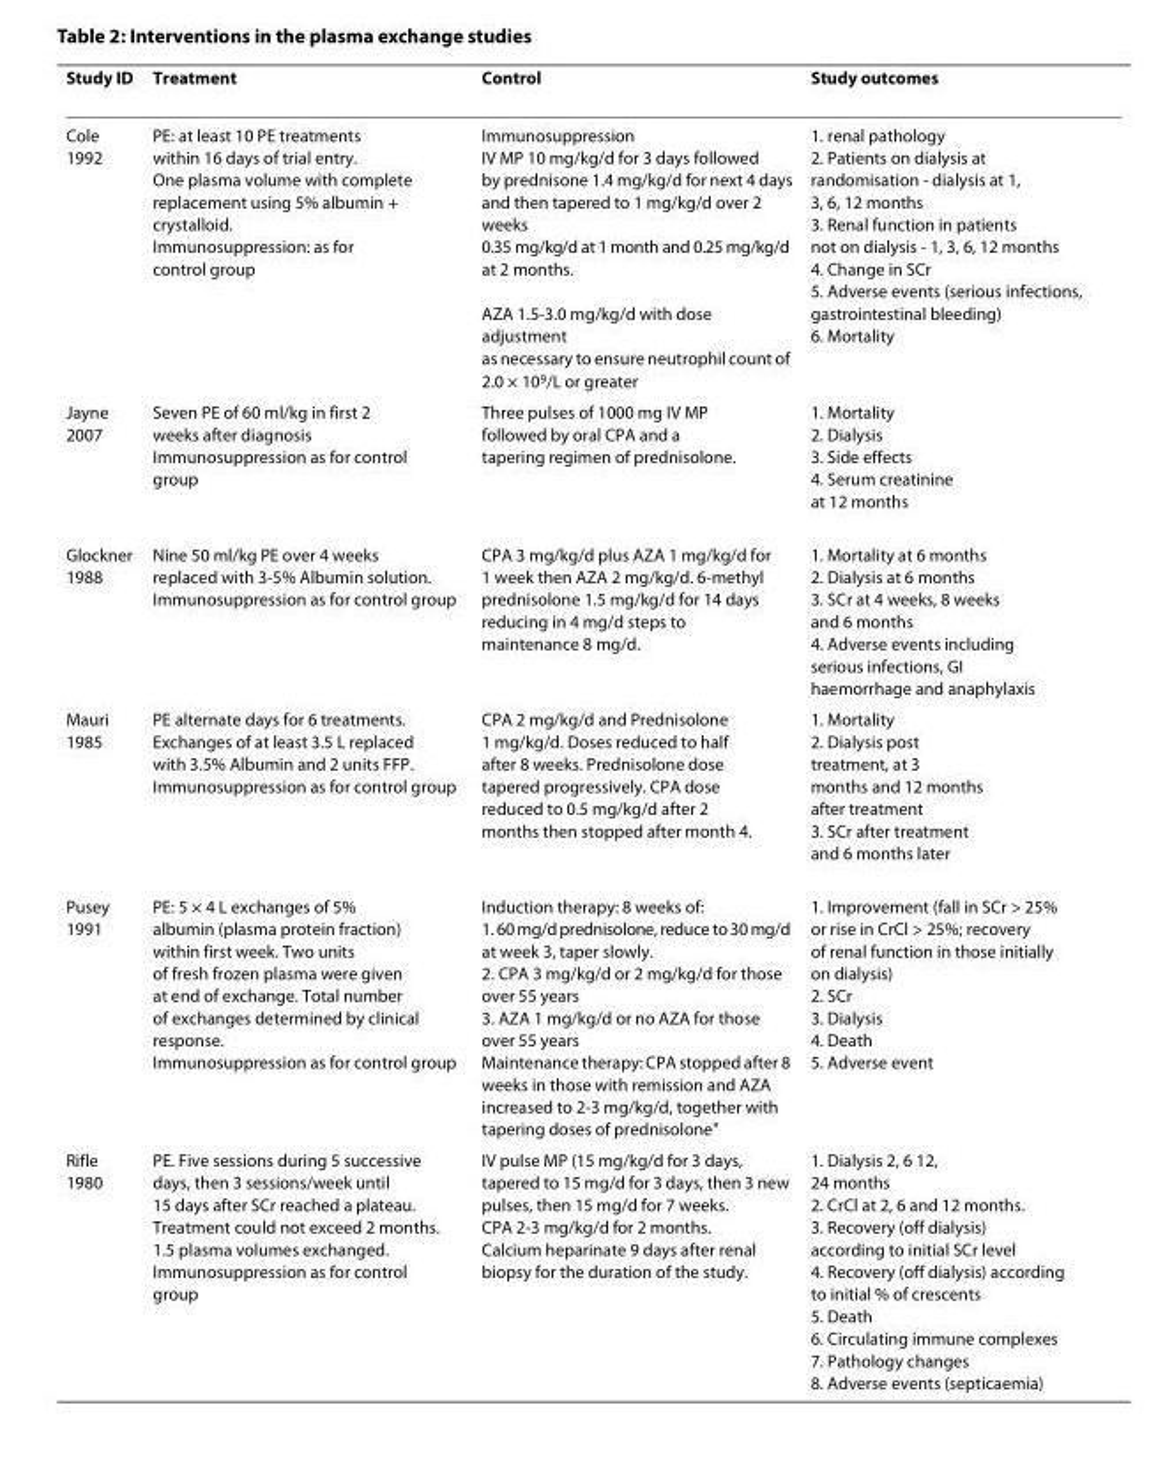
<table><thead><tr><td>Study ID</td><td>Treatment</td><td>Control</td><td>Study outcomes</td></tr></thead><tbody><tr><td>Cole 1992</td><td>PE: at least 10 PE treatments within 16 days of trial entry. One plasma volume with complete replacement using 5% albumin + crystalloid. Immunosuppression: as for control group</td><td>Immunosuppression IV MP 10 mg/kg/d for 3 days followed by prednisone 1.4 mg/kg/d for next 4 days and then tapered to 1 mg/kg/d over 2 weeks 0.35 mg/kg/d at 1 month and 0.25 mg/kg/d at 2 months. AZA 1.5-3.0 mg/kg/d with dose adjustment as necessary to ensure neutrophil count of 2.0 × 10<sup>9</sup>/L or greater</td><td>1. renal pathology 2. Patients on dialysis at randomisation - dialysis at 1, 3, 6, 12 months 3. Renal function in patients not on dialysis - 1, 3, 6, 12 months 4. Change in SCr 5. Adverse events (serious infections, gastrointestinal bleeding) 6. Mortality</td></tr><tr><td>Jayne 2007</td><td>Seven PE of 60 ml/kg in first 2 weeks after diagnosis Immunosuppression as for control group</td><td>Three pulses of 1000 mg IV MP followed by oral CPA and a tapering regimen of prednisolone.</td><td>1. Mortality 2. Dialysis 3. Side effects 4. Serum creatinine at 12 months</td></tr><tr><td>Glockner 1988</td><td>Nine 50 ml/kg PE over 4 weeks replaced with 3-5% Albumin solution. Immunosuppression as for control group</td><td>CPA 3 mg/kg/d plus AZA 1 mg/kg/d for 1 week then AZA 2 mg/kg/d. 6-methyl prednisolone 1.5 mg/kg/d for 14 days reducing in 4 mg/d steps to maintenance 8 mg/d.</td><td>1. Mortality at 6 months 2. Dialysis at 6 months 3. SCr at 4 weeks, 8 weeks and 6 months 4. Adverse events including serious infections, GI haemorrhage and anaphylaxis</td></tr><tr><td>Mauri 1985</td><td>PE alternate days for 6 treatments. Exchanges of at least 3.5 L replaced with 3.5% Albumin and 2 units FFP. Immunosuppression as for control group</td><td>CPA 2 mg/kg/d and Prednisolone 1 mg/kg/d. Doses reduced to half after 8 weeks. Prednisolone dose tapered progressively. CPA dose reduced to 0.5 mg/kg/d after 2 months then stopped after month 4.</td><td>1. Mortality 2. Dialysis post treatment, at 3 months and 12 months after treatment 3. SCr after treatment and 6 months later</td></tr><tr><td>Pusey 1991</td><td>PE: 5 × 4 L exchanges of 5% albumin (plasma protein fraction) within first week. Two units of fresh frozen plasma were given at end of exchange. Total number of exchanges determined by clinical response. Immunosuppression as for control group</td><td>Induction therapy: 8 weeks of: 1. 60 mg/d prednisolone, reduce to 30 mg/d at week 3, taper slowly. 2. CPA 3 mg/kg/d or 2 mg/kg/d for those over 55 years 3. AZA 1 mg/kg/d or no AZA for those over 55 years Maintenance therapy: CPA stopped after 8 weeks in those with remission and AZA increased to 2-3 mg/kg/d, together with tapering doses of prednisolone&quot;</td><td>1. Improvement (fall in SCr &gt; 25% or rise in CrCl &gt; 25%; recovery of renal function in those initially on dialysis) 2. SCr 3. Dialysis 4. Death 5. Adverse event</td></tr><tr><td>Rifle 1980</td><td>PE. Five sessions during 5 successive days, then 3 sessions/week until 15 days after SCr reached a plateau. Treatment could not exceed 2 months. 1.5 plasma volumes exchanged. Immunosuppression as for control group</td><td>IV pulse MP (15 mg/kg/d for 3 days, tapered to 15 mg/d for 3 days, then 3 new pulses, then 15 mg/d for 7 weeks. CPA 2-3 mg/kg/d for 2 months. Calcium heparinate 9 days after renal biopsy for the duration of the study.</td><td>1. Dialysis 2, 6 12, 24 months 2. CrCl at 2, 6 and 12 months. 3. Recovery (off dialysis) according to initial SCr level 4. Recovery (off dialysis) according to initial % of crescents 5. Death 6. Circulating immune complexes 7. Pathology changes 8. Adverse events (septicaemia)</td></tr></tbody></table>